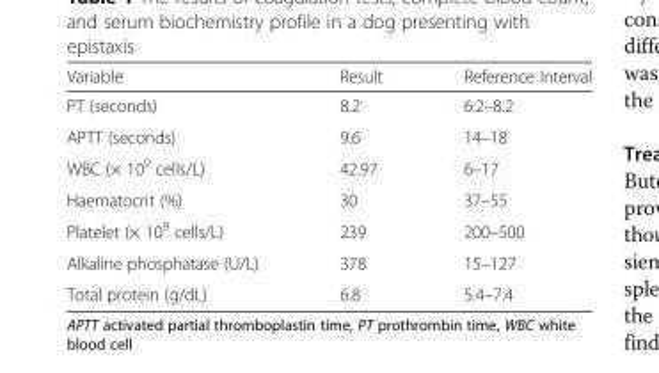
<table><thead><tr><td>Variable</td><td>Result</td><td>Reference Interval</td></tr></thead><tbody><tr><td>PT (seconds)</td><td>8.2</td><td>6.2–8.2</td></tr><tr><td>APTT (seconds)</td><td>9.6</td><td>14–18</td></tr><tr><td>WBC (× 10<sup>9</sup> cells/L)</td><td>42.97</td><td>6–17</td></tr><tr><td>Haematocrit (%)</td><td>30</td><td>37–55</td></tr><tr><td>Platelet (× 10<sup>9</sup> cells/L)</td><td>239</td><td>200–500</td></tr><tr><td>Alkaline phosphatase (U/L)</td><td>378</td><td>15–127</td></tr><tr><td>Total protein (g/dL)</td><td>6.8</td><td>5.4–7.4</td></tr></tbody></table>